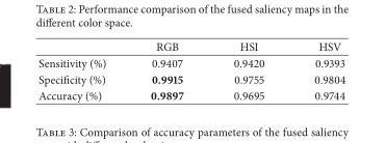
<table><thead><tr><td></td><td>RGB</td><td>HSI</td><td>HSV</td></tr></thead><tbody><tr><td>Sensitivity (%)</td><td>0.9407</td><td>0.9420</td><td>0.9393</td></tr><tr><td>Specificity (%)</td><td>0.9915</td><td>0.9755</td><td>0.9804</td></tr><tr><td>Accuracy (%)</td><td>0.9897</td><td>0.9695</td><td>0.9744</td></tr></tbody></table>